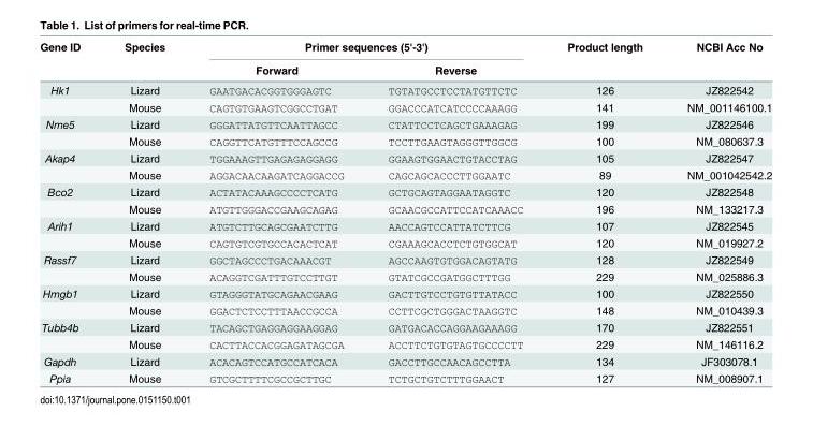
<table><thead><tr><td rowspan="2">Gene ID</td><td rowspan="2">Species</td><td colspan="2">Primer sequences (5&#x27;-3&#x27;)</td><td rowspan="2">Product length</td><td rowspan="2">NCBI Acc No</td></tr><tr><td>Forward</td><td>Reverse</td></tr></thead><tbody><tr><td rowspan="2">Hk1</td><td>Lizard</td><td>GAATGACACGGTGGGAGTC</td><td>TGTATGCCTCCTATGTTCTC</td><td>126</td><td>JZ822542</td></tr><tr><td>Mouse</td><td>CAGTGTGAAGTCGGCCTGAT</td><td>GGACCCATCATCCCCAAAGG</td><td>141</td><td>NM_001146100.1</td></tr><tr><td rowspan="2">Nme5</td><td>Lizard</td><td>GGGATTATGTTCAATTAGCC</td><td>CTATTCCTCAGCTGAAAGAG</td><td>199</td><td>JZ822546</td></tr><tr><td>Mouse</td><td>CAGGTTCATGTTTCCAGCCG</td><td>TCCTTGAAGTAGGGTTGGCG</td><td>100</td><td>NM_080637.3</td></tr><tr><td rowspan="2">Akap4</td><td>Lizard</td><td>TGGAAAGTTGAGAGAGGAGG</td><td>GGAAGTGGAACTGTACCTAG</td><td>105</td><td>JZ822547</td></tr><tr><td>Mouse</td><td>AGGACAACAAGATCAGGACCG</td><td>CAGCAGCACCCTTGGAATC</td><td>89</td><td>NM_001042542.2</td></tr><tr><td rowspan="2">Bco2</td><td>Lizard</td><td>ACTATACAAAGCCCCTCATG</td><td>GCTGCAGTAGGAATAGGTC</td><td>120</td><td>JZ822548</td></tr><tr><td>Mouse</td><td>ATGTTGGGACCGAAGCAGAG</td><td>GCAACGCCATTCCATCAAACC</td><td>196</td><td>NM_133217.3</td></tr><tr><td rowspan="2">Arih1</td><td>Lizard</td><td>ATGTCTTGCAGCGAATCTTG</td><td>AACCAGTCCATTATCTTCG</td><td>107</td><td>JZ822545</td></tr><tr><td>Mouse</td><td>CAGTGTCGTGCCACACTCAT</td><td>CGAAAGCACCTCTGTGGCAT</td><td>120</td><td>NM_019927.2</td></tr><tr><td rowspan="2">Rassf7</td><td>Lizard</td><td>GGCTAGCCCTGACAAACGT</td><td>AGCCAAGTGTGGACAGTATG</td><td>128</td><td>JZ822549</td></tr><tr><td>Mouse</td><td>ACAGGTCGATTTGTCCTTGT</td><td>GTATCGCCGATGGCTTTGG</td><td>229</td><td>NM_025886.3</td></tr><tr><td rowspan="2">Hmgb1</td><td>Lizard</td><td>GTAGGGTATGCAGAACGAAG</td><td>GACTTGTCCTGTGTTATACC</td><td>100</td><td>JZ822550</td></tr><tr><td>Mouse</td><td>GGACTCTCCTTTAACCGCCA</td><td>CCTTCGCTGGGACTAAGGTC</td><td>148</td><td>NM_010439.3</td></tr><tr><td rowspan="2">Tubb4b</td><td>Lizard</td><td>TACAGCTGAGGAGGAAGGAG</td><td>GATGACACCAGGAAGAAAGG</td><td>170</td><td>JZ822551</td></tr><tr><td>Mouse</td><td>CACTTACCACGGAGATAGCGA</td><td>ACCTTCTGTGTAGTGCCCCTT</td><td>229</td><td>NM_146116.2</td></tr><tr><td>Gapdh</td><td>Lizard</td><td>ACACAGTCCATGCCATCACA</td><td>GACCTTGCCAACAGCCTTA</td><td>134</td><td>JF303078.1</td></tr><tr><td>Ppia</td><td>Mouse</td><td>GTCGCTTTTCGCCGCTTGC</td><td>TCTGCTGTCTTTGGAACT</td><td>127</td><td>NM_008907.1</td></tr></tbody></table>